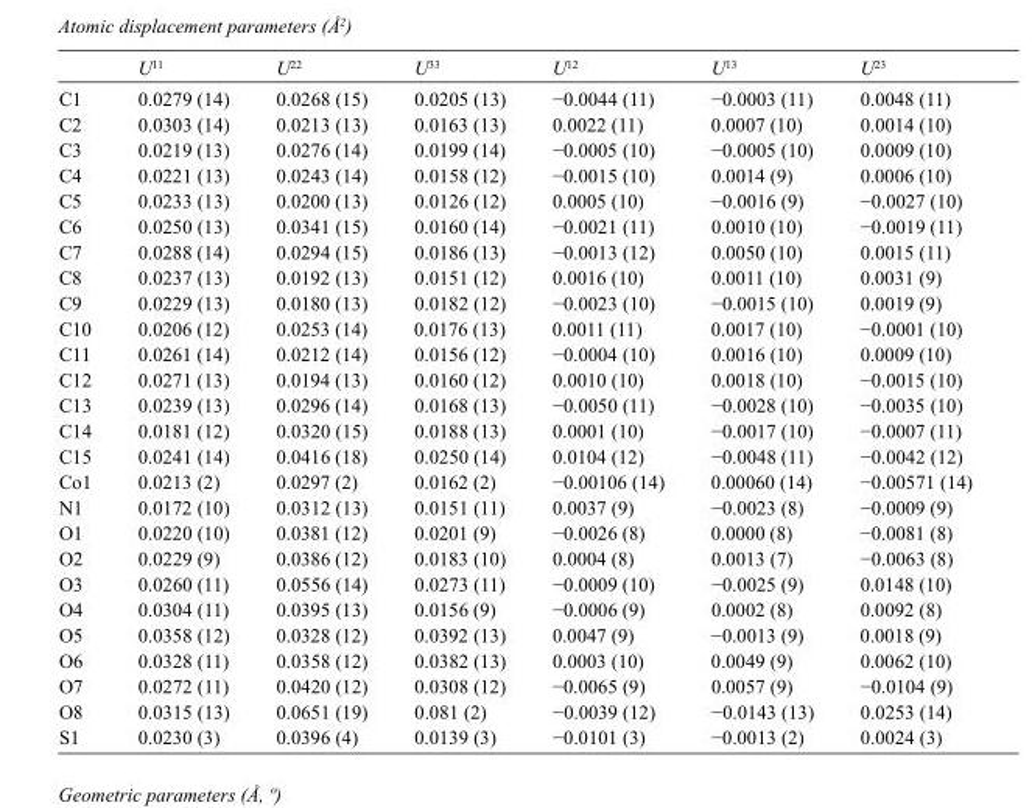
<table><thead><tr><td></td><td>U<sup>11</sup></td><td>U<sup>22</sup></td><td>U<sup>33</sup></td><td>U<sup>12</sup></td><td>U<sup>13</sup></td><td>U<sup>23</sup></td></tr></thead><tbody><tr><td>C1</td><td>0.0279 (14)</td><td>0.0268 (15)</td><td>0.0205 (13)</td><td>−0.0044 (11)</td><td>−0.0003 (11)</td><td>0.0048 (11)</td></tr><tr><td>C2</td><td>0.0303 (14)</td><td>0.0213 (13)</td><td>0.0163 (13)</td><td>0.0022 (11)</td><td>0.0007 (10)</td><td>0.0014 (10)</td></tr><tr><td>C3</td><td>0.0219 (13)</td><td>0.0276 (14)</td><td>0.0199 (14)</td><td>−0.0005 (10)</td><td>−0.0005 (10)</td><td>0.0009 (10)</td></tr><tr><td>C4</td><td>0.0221 (13)</td><td>0.0243 (14)</td><td>0.0158 (12)</td><td>−0.0015 (10)</td><td>0.0014 (9)</td><td>0.0006 (10)</td></tr><tr><td>C5</td><td>0.0233 (13)</td><td>0.0200 (13)</td><td>0.0126 (12)</td><td>0.0005 (10)</td><td>−0.0016 (9)</td><td>−0.0027 (10)</td></tr><tr><td>C6</td><td>0.0250 (13)</td><td>0.0341 (15)</td><td>0.0160 (14)</td><td>−0.0021 (11)</td><td>0.0010 (10)</td><td>−0.0019 (11)</td></tr><tr><td>C7</td><td>0.0288 (14)</td><td>0.0294 (15)</td><td>0.0186 (13)</td><td>−0.0013 (12)</td><td>0.0050 (10)</td><td>0.0015 (11)</td></tr><tr><td>C8</td><td>0.0237 (13)</td><td>0.0192 (13)</td><td>0.0151 (12)</td><td>0.0016 (10)</td><td>0.0011 (10)</td><td>0.0031 (9)</td></tr><tr><td>C9</td><td>0.0229 (13)</td><td>0.0180 (13)</td><td>0.0182 (12)</td><td>−0.0023 (10)</td><td>−0.0015 (10)</td><td>0.0019 (9)</td></tr><tr><td>C10</td><td>0.0206 (12)</td><td>0.0253 (14)</td><td>0.0176 (13)</td><td>0.0011 (11)</td><td>0.0017 (10)</td><td>−0.0001 (10)</td></tr><tr><td>C11</td><td>0.0261 (14)</td><td>0.0212 (14)</td><td>0.0156 (12)</td><td>−0.0004 (10)</td><td>0.0016 (10)</td><td>0.0009 (10)</td></tr><tr><td>C12</td><td>0.0271 (13)</td><td>0.0194 (13)</td><td>0.0160 (12)</td><td>0.0010 (10)</td><td>0.0018 (10)</td><td>−0.0015 (10)</td></tr><tr><td>C13</td><td>0.0239 (13)</td><td>0.0296 (14)</td><td>0.0168 (13)</td><td>−0.0050 (11)</td><td>−0.0028 (10)</td><td>−0.0035 (10)</td></tr><tr><td>C14</td><td>0.0181 (12)</td><td>0.0320 (15)</td><td>0.0188 (13)</td><td>0.0001 (10)</td><td>−0.0017 (10)</td><td>−0.0007 (11)</td></tr><tr><td>C15</td><td>0.0241 (14)</td><td>0.0416 (18)</td><td>0.0250 (14)</td><td>0.0104 (12)</td><td>−0.0048 (11)</td><td>−0.0042 (12)</td></tr><tr><td>Co1</td><td>0.0213 (2)</td><td>0.0297 (2)</td><td>0.0162 (2)</td><td>−0.00106 (14)</td><td>0.00060 (14)</td><td>−0.00571 (14)</td></tr><tr><td>N1</td><td>0.0172 (10)</td><td>0.0312 (13)</td><td>0.0151 (11)</td><td>0.0037 (9)</td><td>−0.0023 (8)</td><td>−0.0009 (9)</td></tr><tr><td>O1</td><td>0.0220 (10)</td><td>0.0381 (12)</td><td>0.0201 (9)</td><td>−0.0026 (8)</td><td>0.0000 (8)</td><td>−0.0081 (8)</td></tr><tr><td>O2</td><td>0.0229 (9)</td><td>0.0386 (12)</td><td>0.0183 (10)</td><td>0.0004 (8)</td><td>0.0013 (7)</td><td>−0.0063 (8)</td></tr><tr><td>O3</td><td>0.0260 (11)</td><td>0.0556 (14)</td><td>0.0273 (11)</td><td>−0.0009 (10)</td><td>−0.0025 (9)</td><td>0.0148 (10)</td></tr><tr><td>O4</td><td>0.0304 (11)</td><td>0.0395 (13)</td><td>0.0156 (9)</td><td>−0.0006 (9)</td><td>0.0002 (8)</td><td>0.0092 (8)</td></tr><tr><td>O5</td><td>0.0358 (12)</td><td>0.0328 (12)</td><td>0.0392 (13)</td><td>0.0047 (9)</td><td>−0.0013 (9)</td><td>0.0018 (9)</td></tr><tr><td>O6</td><td>0.0328 (11)</td><td>0.0358 (12)</td><td>0.0382 (13)</td><td>0.0003 (10)</td><td>0.0049 (9)</td><td>0.0062 (10)</td></tr><tr><td>O7</td><td>0.0272 (11)</td><td>0.0420 (12)</td><td>0.0308 (12)</td><td>−0.0065 (9)</td><td>0.0057 (9)</td><td>−0.0104 (9)</td></tr><tr><td>O8</td><td>0.0315 (13)</td><td>0.0651 (19)</td><td>0.081 (2)</td><td>−0.0039 (12)</td><td>−0.0143 (13)</td><td>0.0253 (14)</td></tr><tr><td>S1</td><td>0.0230 (3)</td><td>0.0396 (4)</td><td>0.0139 (3)</td><td>−0.0101 (3)</td><td>−0.0013 (2)</td><td>0.0024 (3)</td></tr></tbody></table>